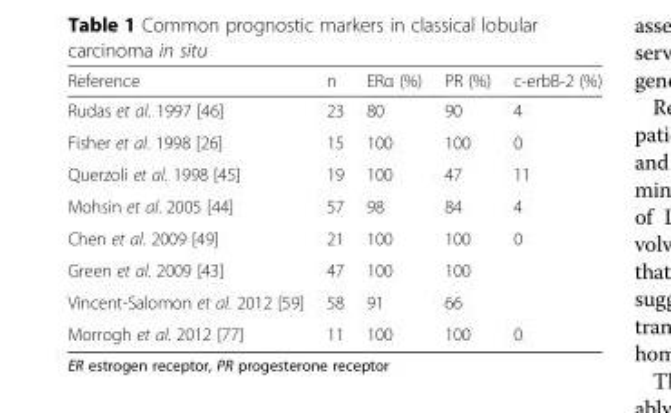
<table><thead><tr><td>Reference</td><td>n</td><td>ERα (%)</td><td>PR (%)</td><td>c-erbB-2 (%)</td></tr></thead><tbody><tr><td>Rudas et al. 1997 [46]</td><td>23</td><td>80</td><td>90</td><td>4</td></tr><tr><td>Fisher et al. 1998 [26]</td><td>15</td><td>100</td><td>100</td><td>0</td></tr><tr><td>Querzoli et al. 1998 [45]</td><td>19</td><td>100</td><td>47</td><td>11</td></tr><tr><td>Mohsin et al. 2005 [44]</td><td>57</td><td>98</td><td>84</td><td>4</td></tr><tr><td>Chen et al. 2009 [49]</td><td>21</td><td>100</td><td>100</td><td>0</td></tr><tr><td>Green et al. 2009 [43]</td><td>47</td><td>100</td><td>100</td><td></td></tr><tr><td>Vincent-Salomon et al. 2012 [59]</td><td>58</td><td>91</td><td>66</td><td></td></tr><tr><td>Morrogh et al. 2012 [77]</td><td>11</td><td>100</td><td>100</td><td>0</td></tr></tbody></table>